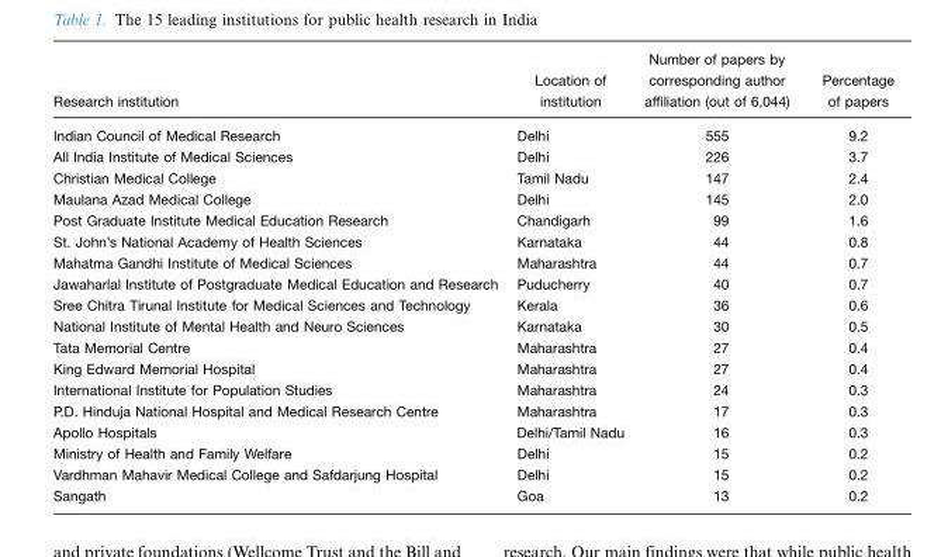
<table><thead><tr><td>Research institution</td><td>Location of institution</td><td>Number of papers by corresponding author affiliation (out of 6,044)</td><td>Percentage of papers</td></tr></thead><tbody><tr><td>Indian Council of Medical Research</td><td>Delhi</td><td>555</td><td>9.2</td></tr><tr><td>All India Institute of Medical Sciences</td><td>Delhi</td><td>226</td><td>3.7</td></tr><tr><td>Christian Medical College</td><td>Tamil Nadu</td><td>147</td><td>2.4</td></tr><tr><td>Maulana Azad Medical College</td><td>Delhi</td><td>145</td><td>2.0</td></tr><tr><td>Post Graduate Institute Medical Education Research</td><td>Chandigarh</td><td>99</td><td>1.6</td></tr><tr><td>St. John’s National Academy of Health Sciences</td><td>Karnataka</td><td>44</td><td>0.8</td></tr><tr><td>Mahatma Gandhi Institute of Medical Sciences</td><td>Maharashtra</td><td>44</td><td>0.7</td></tr><tr><td>Jawaharlal Institute of Postgraduate Medical Education and Research</td><td>Puducherry</td><td>40</td><td>0.7</td></tr><tr><td>Sree Chitra Tirunal Institute for Medical Sciences and Technology</td><td>Kerala</td><td>36</td><td>0.6</td></tr><tr><td>National Institute of Mental Health and Neuro Sciences</td><td>Karnataka</td><td>30</td><td>0.5</td></tr><tr><td>Tata Memorial Centre</td><td>Maharashtra</td><td>27</td><td>0.4</td></tr><tr><td>King Edward Memorial Hospital</td><td>Maharashtra</td><td>27</td><td>0.4</td></tr><tr><td>International Institute for Population Studies</td><td>Maharashtra</td><td>24</td><td>0.3</td></tr><tr><td>P.D. Hinduja National Hospital and Medical Research Centre</td><td>Maharashtra</td><td>17</td><td>0.3</td></tr><tr><td>Apollo Hospitals</td><td>Delhi/Tamil Nadu</td><td>16</td><td>0.3</td></tr><tr><td>Ministry of Health and Family Welfare</td><td>Delhi</td><td>15</td><td>0.2</td></tr><tr><td>Vardhman Mahavir Medical College and Safdarjung Hospital</td><td>Delhi</td><td>15</td><td>0.2</td></tr><tr><td>Sangath</td><td>Goa</td><td>13</td><td>0.2</td></tr></tbody></table>